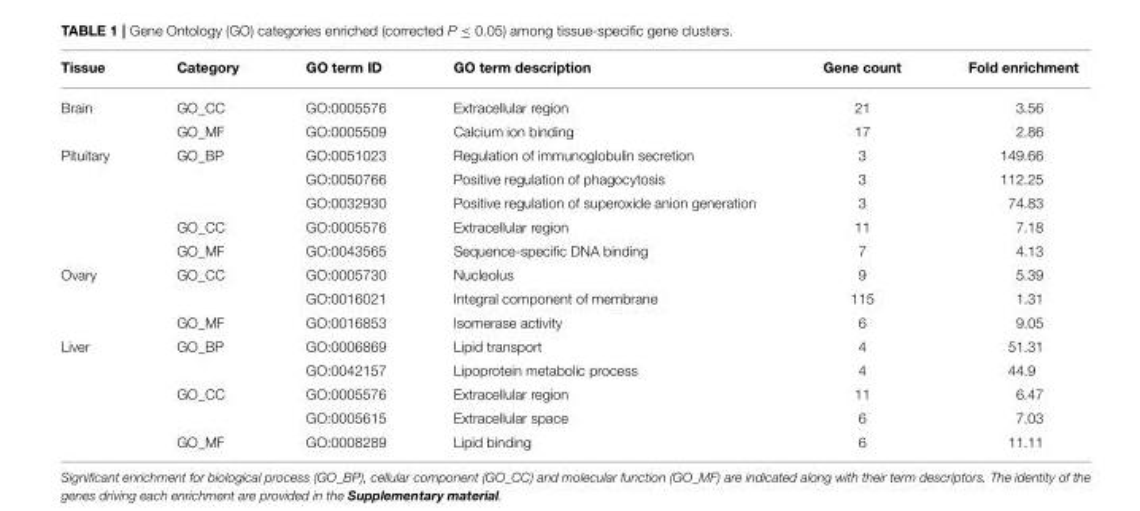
<table><thead><tr><td>Tissue</td><td>Category</td><td>GO term ID</td><td>GO term description</td><td>Gene count</td><td>Fold enrichment</td></tr></thead><tbody><tr><td rowspan="2">Brain</td><td>GO_CC</td><td>GO:0005576</td><td>Extracellular region</td><td>21</td><td>3.56</td></tr><tr><td>GO_MF</td><td>GO:0005509</td><td>Calcium ion binding</td><td>17</td><td>2.86</td></tr><tr><td rowspan="5">Pituitary</td><td>GO_BP</td><td>GO:0051023</td><td>Regulation of immunoglobulin secretion</td><td>3</td><td>149.66</td></tr><tr><td></td><td>GO:0050766</td><td>Positive regulation of phagocytosis</td><td>3</td><td>112.25</td></tr><tr><td></td><td>GO:0032930</td><td>Positive regulation of superoxide anion generation</td><td>3</td><td>74.83</td></tr><tr><td>GO_CC</td><td>GO:0005576</td><td>Extracellular region</td><td>11</td><td>7.18</td></tr><tr><td>GO_MF</td><td>GO:0043565</td><td>Sequence-specific DNA binding</td><td>7</td><td>4.13</td></tr><tr><td rowspan="3">Ovary</td><td>GO_CC</td><td>GO:0005730</td><td>Nucleolus</td><td>9</td><td>5.39</td></tr><tr><td></td><td>GO:0016021</td><td>Integral component of membrane</td><td>115</td><td>1.31</td></tr><tr><td>GO_MF</td><td>GO:0016853</td><td>Isomerase activity</td><td>6</td><td>9.05</td></tr><tr><td rowspan="5">Liver</td><td>GO_BP</td><td>GO:0006869</td><td>Lipid transport</td><td>4</td><td>51.31</td></tr><tr><td></td><td>GO:0042157</td><td>Lipoprotein metabolic process</td><td>4</td><td>44.9</td></tr><tr><td>GO_CC</td><td>GO:0005576</td><td>Extracellular region</td><td>11</td><td>6.47</td></tr><tr><td></td><td>GO:0005615</td><td>Extracellular space</td><td>6</td><td>7.03</td></tr><tr><td>GO_MF</td><td>GO:0008289</td><td>Lipid binding</td><td>6</td><td>11.11</td></tr></tbody></table>